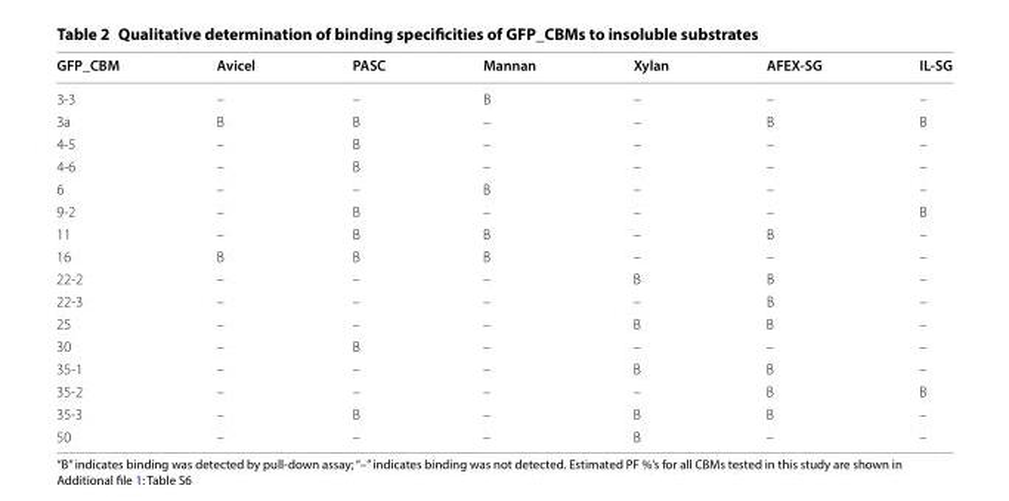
<table><thead><tr><td>GFP_CBM</td><td>Avicel</td><td>PASC</td><td>Mannan</td><td>Xylan</td><td>AFEX‑SG</td><td>IL‑SG</td></tr></thead><tbody><tr><td>3-3</td><td>–</td><td>–</td><td>B</td><td>–</td><td>–</td><td>–</td></tr><tr><td>3a</td><td>B</td><td>B</td><td>–</td><td>–</td><td>B</td><td>B</td></tr><tr><td>4-5</td><td>–</td><td>B</td><td>–</td><td>–</td><td>–</td><td>–</td></tr><tr><td>4-6</td><td>–</td><td>B</td><td>–</td><td>–</td><td>–</td><td>–</td></tr><tr><td>6</td><td>–</td><td>–</td><td>B</td><td>–</td><td>–</td><td>–</td></tr><tr><td>9-2</td><td>–</td><td>B</td><td>–</td><td>–</td><td>–</td><td>B</td></tr><tr><td>11</td><td>–</td><td>B</td><td>B</td><td>–</td><td>B</td><td>–</td></tr><tr><td>16</td><td>B</td><td>B</td><td>B</td><td>–</td><td>–</td><td>–</td></tr><tr><td>22-2</td><td>–</td><td>–</td><td>–</td><td>B</td><td>B</td><td>–</td></tr><tr><td>22-3</td><td>–</td><td>–</td><td>–</td><td>–</td><td>B</td><td>–</td></tr><tr><td>25</td><td>–</td><td>–</td><td>–</td><td>B</td><td>B</td><td>–</td></tr><tr><td>30</td><td>–</td><td>B</td><td>–</td><td>–</td><td>–</td><td>–</td></tr><tr><td>35-1</td><td>–</td><td>–</td><td>–</td><td>B</td><td>B</td><td>–</td></tr><tr><td>35-2</td><td>–</td><td>–</td><td>–</td><td>–</td><td>B</td><td>B</td></tr><tr><td>35-3</td><td>–</td><td>B</td><td>–</td><td>B</td><td>B</td><td>–</td></tr><tr><td>50</td><td>–</td><td>–</td><td>–</td><td>B</td><td>–</td><td>–</td></tr></tbody></table>